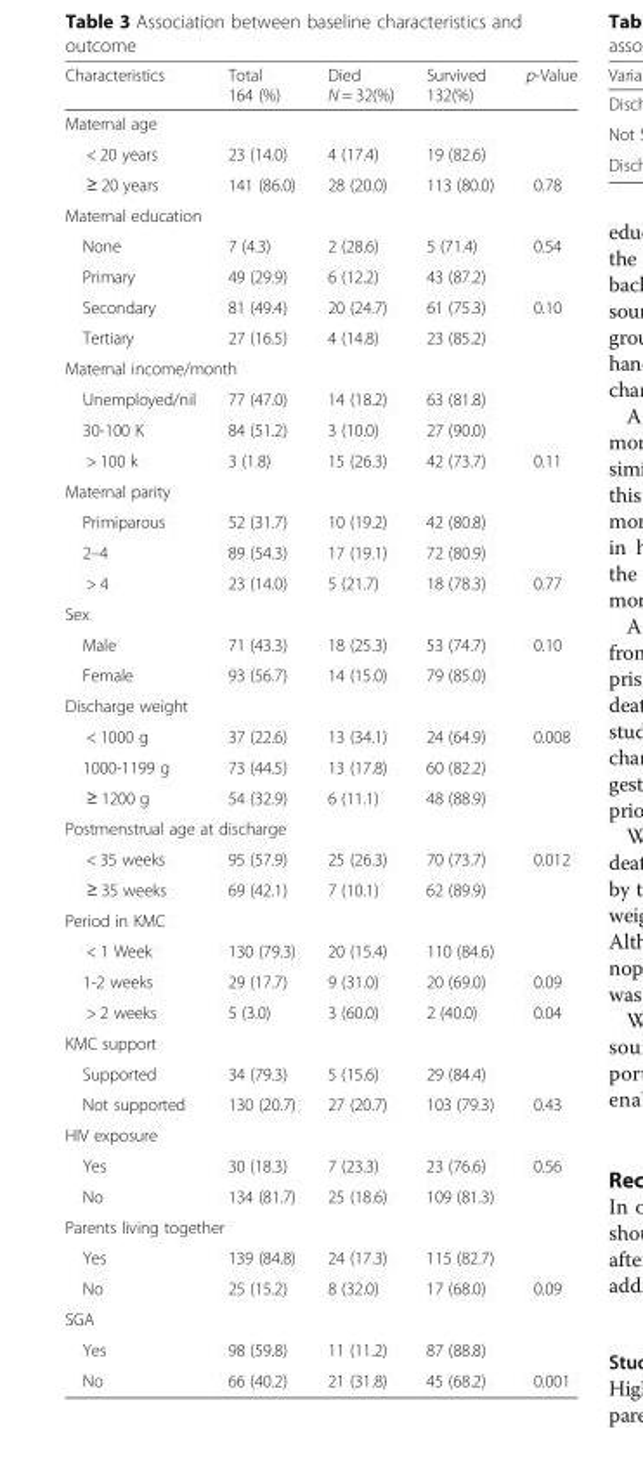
<table><thead><tr><td>Characteristics</td><td>Total 164 (%)</td><td>Died N = 32(%)</td><td>Survived 132(%)</td><td>p-Value</td></tr></thead><tbody><tr><td colspan="5">Maternal age</td></tr><tr><td>&lt; 20 years</td><td>23 (14.0)</td><td>4 (17.4)</td><td>19 (82.6)</td><td></td></tr><tr><td>≥ 20 years</td><td>141 (86.0)</td><td>28 (20.0)</td><td>113 (80.0)</td><td>0.78</td></tr><tr><td colspan="5">Maternal education</td></tr><tr><td>None</td><td>7 (4.3)</td><td>2 (28.6)</td><td>5 (71.4)</td><td>0.54</td></tr><tr><td>Primary</td><td>49 (29.9)</td><td>6 (12.2)</td><td>43 (87.2)</td><td></td></tr><tr><td>Secondary</td><td>81 (49.4)</td><td>20 (24.7)</td><td>61 (75.3)</td><td>0.10</td></tr><tr><td>Tertiary</td><td>27 (16.5)</td><td>4 (14.8)</td><td>23 (85.2)</td><td></td></tr><tr><td colspan="5">Maternal income/month</td></tr><tr><td>Unemployed/nil</td><td>77 (47.0)</td><td>14 (18.2)</td><td>63 (81.8)</td><td></td></tr><tr><td>30-100 K</td><td>84 (51.2)</td><td>3 (10.0)</td><td>27 (90.0)</td><td></td></tr><tr><td>&gt; 100 k</td><td>3 (1.8)</td><td>15 (26.3)</td><td>42 (73.7)</td><td>0.11</td></tr><tr><td colspan="5">Maternal parity</td></tr><tr><td>Primiparous</td><td>52 (31.7)</td><td>10 (19.2)</td><td>42 (80.8)</td><td></td></tr><tr><td>2–4</td><td>89 (54.3)</td><td>17 (19.1)</td><td>72 (80.9)</td><td></td></tr><tr><td>&gt; 4</td><td>23 (14.0)</td><td>5 (21.7)</td><td>18 (78.3)</td><td>0.77</td></tr><tr><td colspan="5">Sex</td></tr><tr><td>Male</td><td>71 (43.3)</td><td>18 (25.3)</td><td>53 (74.7)</td><td>0.10</td></tr><tr><td>Female</td><td>93 (56.7)</td><td>14 (15.0)</td><td>79 (85.0)</td><td></td></tr><tr><td colspan="5">Discharge weight</td></tr><tr><td>&lt; 1000 g</td><td>37 (22.6)</td><td>13 (34.1)</td><td>24 (64.9)</td><td>0.008</td></tr><tr><td>1000-1199 g</td><td>73 (44.5)</td><td>13 (17.8)</td><td>60 (82.2)</td><td></td></tr><tr><td>≥ 1200 g</td><td>54 (32.9)</td><td>6 (11.1)</td><td>48 (88.9)</td><td></td></tr><tr><td colspan="5">Postmenstrual age at discharge</td></tr><tr><td>&lt; 35 weeks</td><td>95 (57.9)</td><td>25 (26.3)</td><td>70 (73.7)</td><td>0.012</td></tr><tr><td>≥ 35 weeks</td><td>69 (42.1)</td><td>7 (10.1)</td><td>62 (89.9)</td><td></td></tr><tr><td colspan="5">Period in KMC</td></tr><tr><td>&lt; 1 Week</td><td>130 (79.3)</td><td>20 (15.4)</td><td>110 (84.6)</td><td></td></tr><tr><td>1-2 weeks</td><td>29 (17.7)</td><td>9 (31.0)</td><td>20 (69.0)</td><td>0.09</td></tr><tr><td>&gt; 2 weeks</td><td>5 (3.0)</td><td>3 (60.0)</td><td>2 (40.0)</td><td>0.04</td></tr><tr><td colspan="5">KMC support</td></tr><tr><td>Supported</td><td>34 (79.3)</td><td>5 (15.6)</td><td>29 (84.4)</td><td></td></tr><tr><td>Not supported</td><td>130 (20.7)</td><td>27 (20.7)</td><td>103 (79.3)</td><td>0.43</td></tr><tr><td colspan="5">HIV exposure</td></tr><tr><td>Yes</td><td>30 (18.3)</td><td>7 (23.3)</td><td>23 (76.6)</td><td>0.56</td></tr><tr><td>No</td><td>134 (81.7)</td><td>25 (18.6)</td><td>109 (81.3)</td><td></td></tr><tr><td colspan="5">Parents living together</td></tr><tr><td>Yes</td><td>139 (84.8)</td><td>24 (17.3)</td><td>115 (82.7)</td><td></td></tr><tr><td>No</td><td>25 (15.2)</td><td>8 (32.0)</td><td>17 (68.0)</td><td>0.09</td></tr><tr><td colspan="5">SGA</td></tr><tr><td>Yes</td><td>98 (59.8)</td><td>11 (11.2)</td><td>87 (88.8)</td><td></td></tr><tr><td>No</td><td>66 (40.2)</td><td>21 (31.8)</td><td>45 (68.2)</td><td>0.001</td></tr></tbody></table>